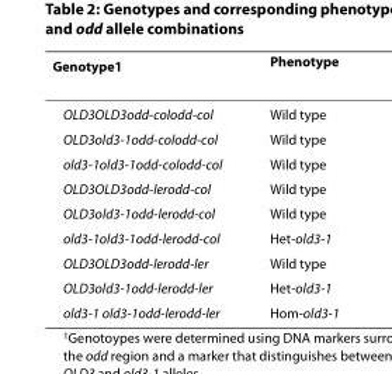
<table><thead><tr><td>Genotype<sup>1</sup></td><td>Phenotype</td></tr></thead><tbody><tr><td>OLD3OLD3odd-colodd-col</td><td>Wild type</td></tr><tr><td>OLD3old3-1odd-colodd-col</td><td>Wild type</td></tr><tr><td>old3-1old3-1odd-colodd-col</td><td>Wild type</td></tr><tr><td>OLD3OLD3odd-lerodd-col</td><td>Wild type</td></tr><tr><td>OLD3old3-1odd-lerodd-col</td><td>Wild type</td></tr><tr><td>old3-1old3-1odd-lerodd-col</td><td>Het-old3-1</td></tr><tr><td>OLD3OLD3odd-lerodd-ler</td><td>Wild type</td></tr><tr><td>OLD3old3-1odd-lerodd-ler</td><td>Het-old3-1</td></tr><tr><td>old3-1 old3-1odd-lerodd-ler</td><td>Hom-old3-1</td></tr></tbody></table>